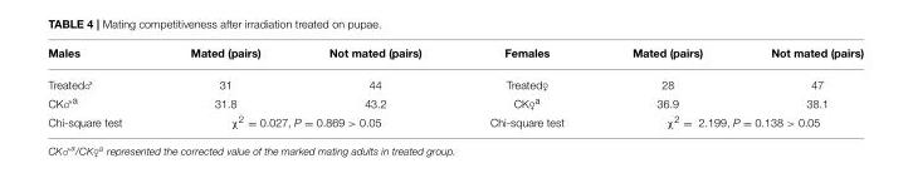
<table><thead><tr><td>Males</td><td>Mated (pairs)</td><td>Not mated (pairs)</td><td>Females</td><td>Mated (pairs)</td><td>Not mated (pairs)</td></tr></thead><tbody><tr><td>Treated♂</td><td>31</td><td>44</td><td>Treated♀</td><td>28</td><td>47</td></tr><tr><td>CK♂<sup>a</sup></td><td>31.8</td><td>43.2</td><td>CK♀<sup>a</sup></td><td>36.9</td><td>38.1</td></tr><tr><td>Chi-square test</td><td colspan="2">χ<sup>2</sup> = 0.027, P = 0.869 &gt; 0.05</td><td>Chi-square test</td><td colspan="2">χ<sup>2</sup> = 2.199, P = 0.138 &gt; 0.05</td></tr></tbody></table>